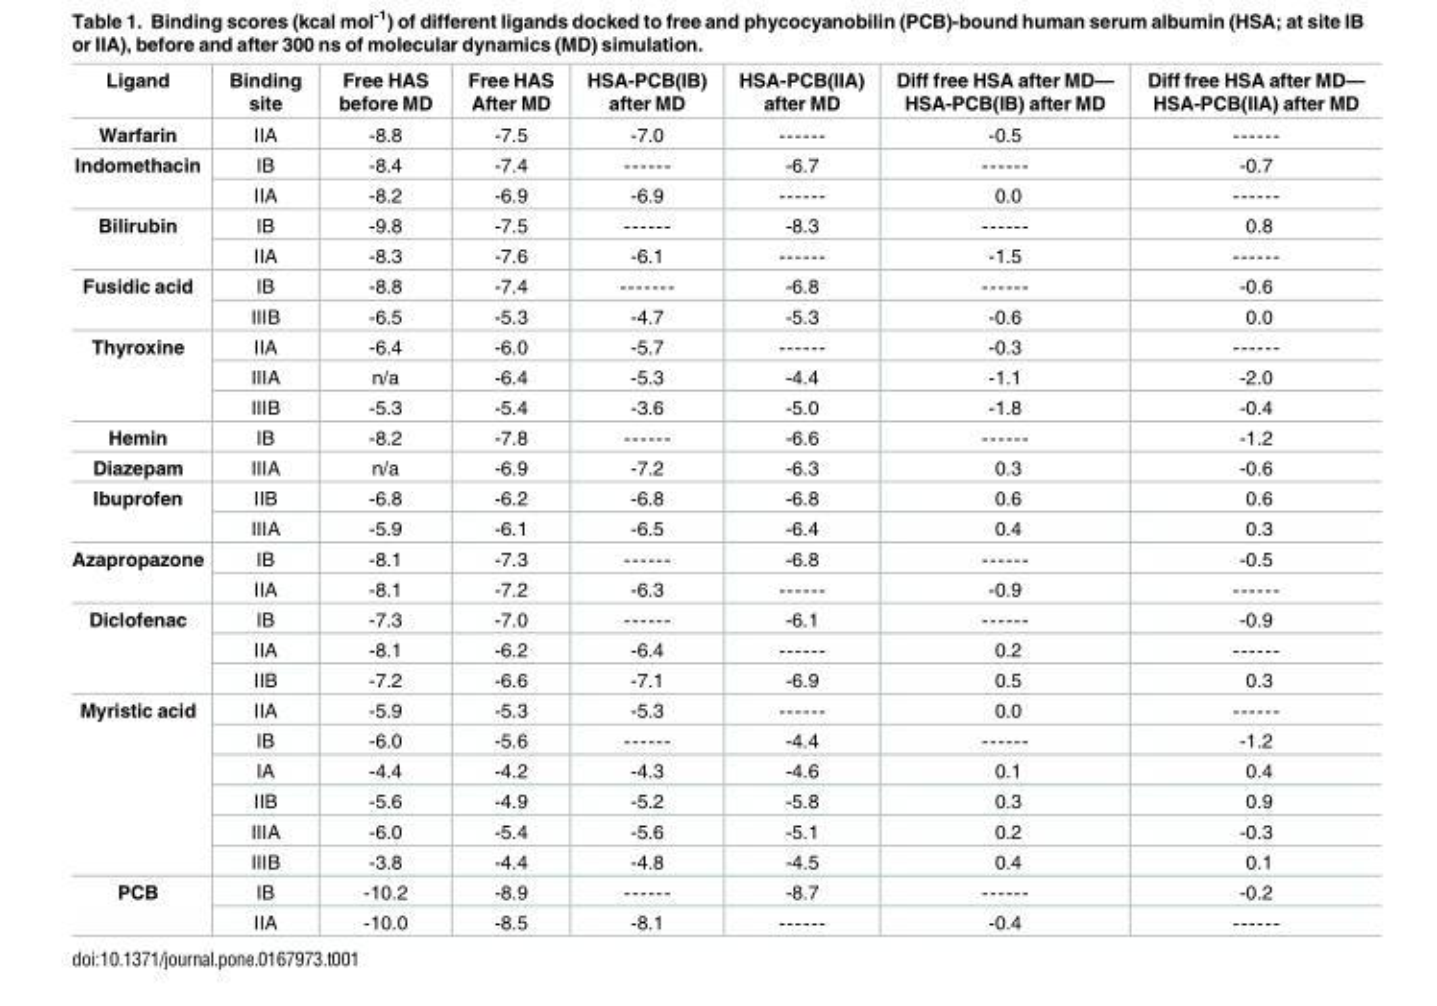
<table><thead><tr><td>Ligand</td><td>Binding site</td><td>Free HAS before MD</td><td>Free HAS After MD</td><td>HSA-PCB(IB) after MD</td><td>HSA-PCB(IIA) after MD</td><td>Diff free HSA after MD— HSA-PCB(IB) after MD</td><td>Diff free HSA after MD— HSA-PCB(IIA) after MD</td></tr></thead><tbody><tr><td>Warfarin</td><td>IIA</td><td>-8.8</td><td>-7.5</td><td>-7.0</td><td>------</td><td>-0.5</td><td>------</td></tr><tr><td rowspan="2">Indomethacin</td><td>IB</td><td>-8.4</td><td>-7.4</td><td>------</td><td>-6.7</td><td>------</td><td>-0.7</td></tr><tr><td>IIA</td><td>-8.2</td><td>-6.9</td><td>-6.9</td><td>------</td><td>0.0</td><td>------</td></tr><tr><td rowspan="2">Bilirubin</td><td>IB</td><td>-9.8</td><td>-7.5</td><td>------</td><td>-8.3</td><td>------</td><td>0.8</td></tr><tr><td>IIA</td><td>-8.3</td><td>-7.6</td><td>-6.1</td><td>------</td><td>-1.5</td><td>------</td></tr><tr><td rowspan="2">Fusidic acid</td><td>IB</td><td>-8.8</td><td>-7.4</td><td>-------</td><td>-6.8</td><td>------</td><td>-0.6</td></tr><tr><td>IIIB</td><td>-6.5</td><td>-5.3</td><td>-4.7</td><td>-5.3</td><td>-0.6</td><td>0.0</td></tr><tr><td rowspan="3">Thyroxine</td><td>IIA</td><td>-6.4</td><td>-6.0</td><td>-5.7</td><td>------</td><td>-0.3</td><td>------</td></tr><tr><td>IIIA</td><td>n/a</td><td>-6.4</td><td>-5.3</td><td>-4.4</td><td>-1.1</td><td>-2.0</td></tr><tr><td>IIIB</td><td>-5.3</td><td>-5.4</td><td>-3.6</td><td>-5.0</td><td>-1.8</td><td>-0.4</td></tr><tr><td>Hemin</td><td>IB</td><td>-8.2</td><td>-7.8</td><td>------</td><td>-6.6</td><td>------</td><td>-1.2</td></tr><tr><td>Diazepam</td><td>IIIA</td><td>n/a</td><td>-6.9</td><td>-7.2</td><td>-6.3</td><td>0.3</td><td>-0.6</td></tr><tr><td rowspan="2">Ibuprofen</td><td>IIB</td><td>-6.8</td><td>-6.2</td><td>-6.8</td><td>-6.8</td><td>0.6</td><td>0.6</td></tr><tr><td>IIIA</td><td>-5.9</td><td>-6.1</td><td>-6.5</td><td>-6.4</td><td>0.4</td><td>0.3</td></tr><tr><td rowspan="2">Azapropazone</td><td>IB</td><td>-8.1</td><td>-7.3</td><td>------</td><td>-6.8</td><td>------</td><td>-0.5</td></tr><tr><td>IIA</td><td>-8.1</td><td>-7.2</td><td>-6.3</td><td>------</td><td>-0.9</td><td>------</td></tr><tr><td rowspan="3">Diclofenac</td><td>IB</td><td>-7.3</td><td>-7.0</td><td>------</td><td>-6.1</td><td>------</td><td>-0.9</td></tr><tr><td>IIA</td><td>-8.1</td><td>-6.2</td><td>-6.4</td><td>------</td><td>0.2</td><td>------</td></tr><tr><td>IIB</td><td>-7.2</td><td>-6.6</td><td>-7.1</td><td>-6.9</td><td>0.5</td><td>0.3</td></tr><tr><td rowspan="6">Myristic acid</td><td>IIA</td><td>-5.9</td><td>-5.3</td><td>-5.3</td><td>------</td><td>0.0</td><td>------</td></tr><tr><td>IB</td><td>-6.0</td><td>-5.6</td><td>------</td><td>-4.4</td><td>------</td><td>-1.2</td></tr><tr><td>IA</td><td>-4.4</td><td>-4.2</td><td>-4.3</td><td>-4.6</td><td>0.1</td><td>0.4</td></tr><tr><td>IIB</td><td>-5.6</td><td>-4.9</td><td>-5.2</td><td>-5.8</td><td>0.3</td><td>0.9</td></tr><tr><td>IIIA</td><td>-6.0</td><td>-5.4</td><td>-5.6</td><td>-5.1</td><td>0.2</td><td>-0.3</td></tr><tr><td>IIIB</td><td>-3.8</td><td>-4.4</td><td>-4.8</td><td>-4.5</td><td>0.4</td><td>0.1</td></tr><tr><td rowspan="2">PCB</td><td>IB</td><td>-10.2</td><td>-8.9</td><td>------</td><td>-8.7</td><td>------</td><td>-0.2</td></tr><tr><td>IIA</td><td>-10.0</td><td>-8.5</td><td>-8.1</td><td>------</td><td>-0.4</td><td>------</td></tr></tbody></table>